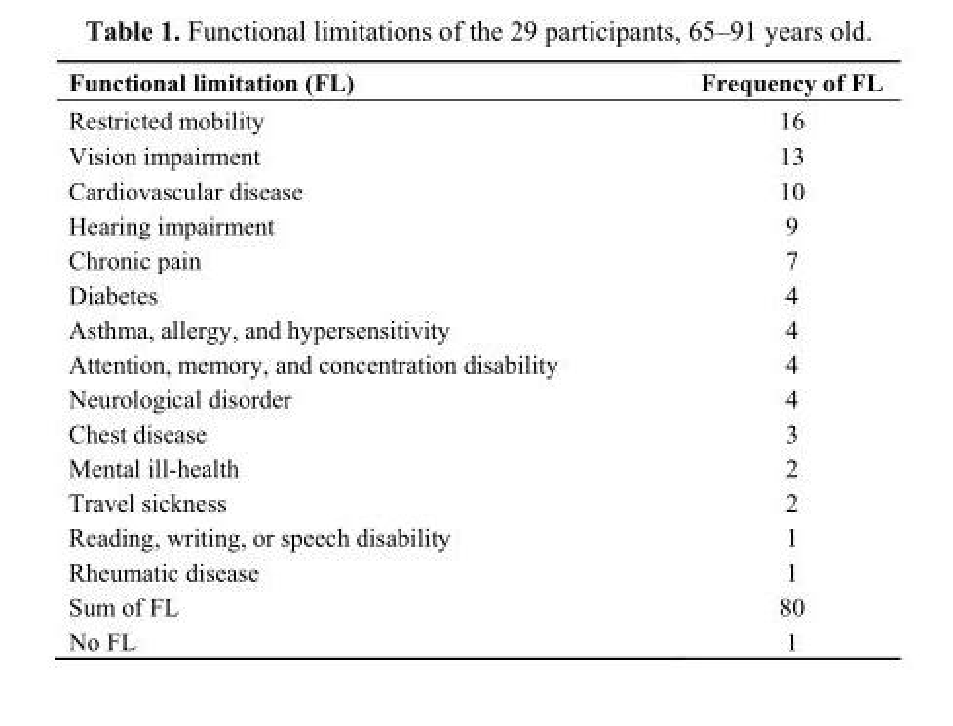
<table><thead><tr><td>Functional limitation (FL)</td><td>Frequency of FL</td></tr></thead><tbody><tr><td>Restricted mobility</td><td>16</td></tr><tr><td>Vision impairment</td><td>13</td></tr><tr><td>Cardiovascular disease</td><td>10</td></tr><tr><td>Hearing impairment</td><td>9</td></tr><tr><td>Chronic pain</td><td>7</td></tr><tr><td>Diabetes</td><td>4</td></tr><tr><td>Asthma, allergy, and hypersensitivity</td><td>4</td></tr><tr><td>Attention, memory, and concentration disability</td><td>4</td></tr><tr><td>Neurological disorder</td><td>4</td></tr><tr><td>Chest disease</td><td>3</td></tr><tr><td>Mental ill-health</td><td>2</td></tr><tr><td>Travel sickness</td><td>2</td></tr><tr><td>Reading, writing, or speech disability</td><td>1</td></tr><tr><td>Rheumatic disease</td><td>1</td></tr><tr><td>Sum of FL</td><td>80</td></tr><tr><td>No FL</td><td>1</td></tr></tbody></table>